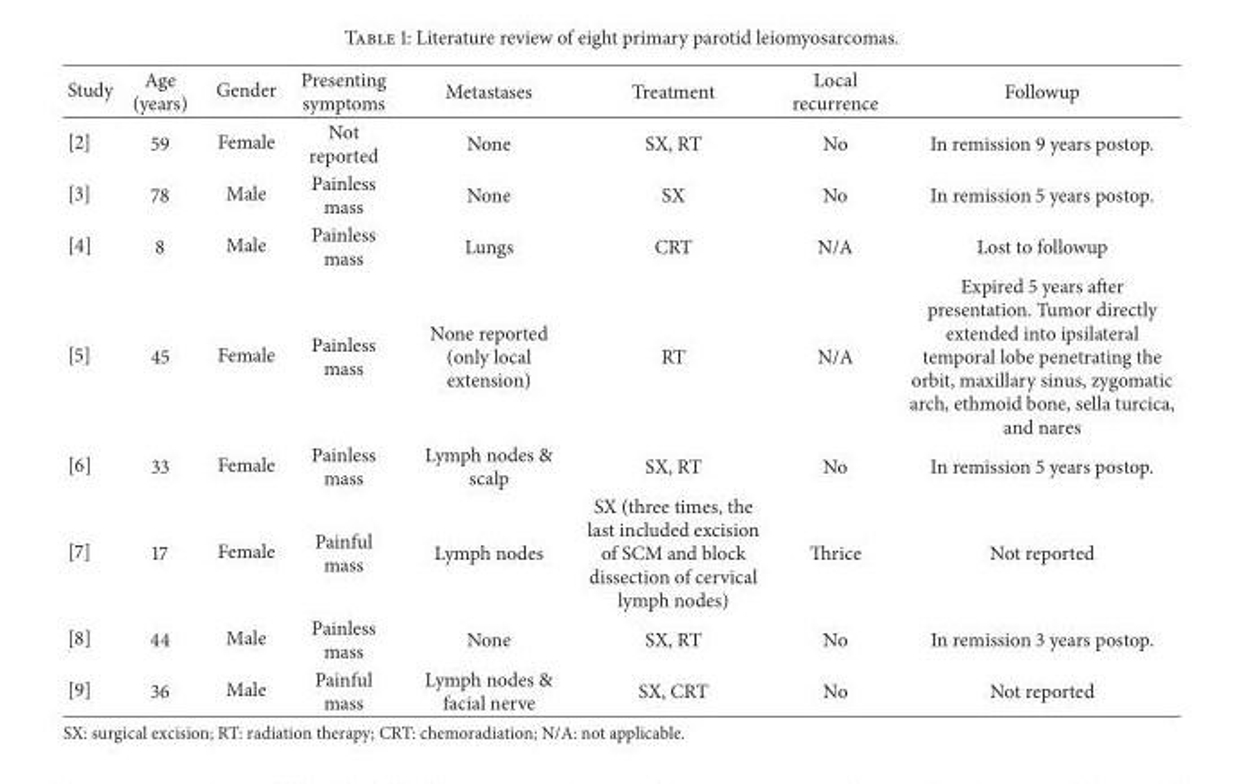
<table><thead><tr><td>Study</td><td>Age (years)</td><td>Gender</td><td>Presenting symptoms</td><td>Metastases</td><td>Treatment</td><td>Local recurrence</td><td>Followup</td></tr></thead><tbody><tr><td>[2]</td><td>59</td><td>Female</td><td>Not reported</td><td>None</td><td>SX, RT</td><td>No</td><td>In remission 9 years postop.</td></tr><tr><td>[3]</td><td>78</td><td>Male</td><td>Painless mass</td><td>None</td><td>SX</td><td>No</td><td>In remission 5 years postop.</td></tr><tr><td>[4]</td><td>8</td><td>Male</td><td>Painless mass</td><td>Lungs</td><td>CRT</td><td>N/A</td><td>Lost to followup</td></tr><tr><td>[5]</td><td>45</td><td>Female</td><td>Painless mass</td><td>None reported (only local extension)</td><td>RT</td><td>N/A</td><td>Expired 5 years after presentation. Tumor directly extended into ipsilateral temporal lobe penetrating the orbit, maxillary sinus, zygomatic arch, ethmoid bone, sella turcica, and nares</td></tr><tr><td>[6]</td><td>33</td><td>Female</td><td>Painless mass</td><td>Lymph nodes &amp; scalp</td><td>SX, RT</td><td>No</td><td>In remission 5 years postop.</td></tr><tr><td>[7]</td><td>17</td><td>Female</td><td>Painful mass</td><td>Lymph nodes</td><td>SX (three times, the last included excision of SCM and block dissection of cervical lymph nodes)</td><td>Thrice</td><td>Not reported</td></tr><tr><td>[8]</td><td>44</td><td>Male</td><td>Painless mass</td><td>None</td><td>SX, RT</td><td>No</td><td>In remission 3 years postop.</td></tr><tr><td>[9]</td><td>36</td><td>Male</td><td>Painful mass</td><td>Lymph nodes &amp; facial nerve</td><td>SX, CRT</td><td>No</td><td>Not reported</td></tr></tbody></table>